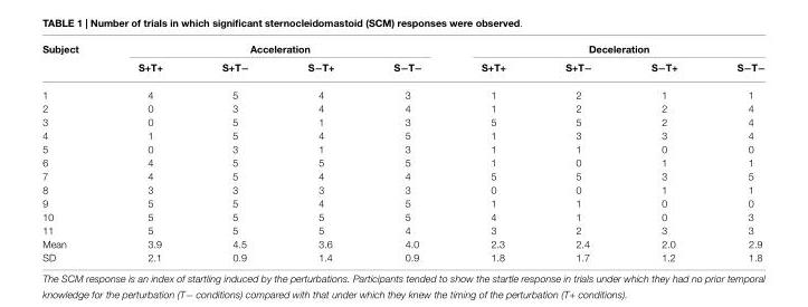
<table><thead><tr><td rowspan="2">Subject</td><td colspan="4">Acceleration</td><td colspan="4">Deceleration</td></tr><tr><td>S+T+</td><td>S+T−</td><td>S−T+</td><td>S−T−</td><td>S+T+</td><td>S+T−</td><td>S−T+</td><td>S−T−</td></tr></thead><tbody><tr><td>1</td><td>4</td><td>5</td><td>4</td><td>3</td><td>1</td><td>2</td><td>1</td><td>1</td></tr><tr><td>2</td><td>0</td><td>3</td><td>4</td><td>4</td><td>1</td><td>2</td><td>2</td><td>4</td></tr><tr><td>3</td><td>0</td><td>5</td><td>1</td><td>3</td><td>5</td><td>5</td><td>2</td><td>4</td></tr><tr><td>4</td><td>1</td><td>5</td><td>4</td><td>5</td><td>1</td><td>3</td><td>3</td><td>4</td></tr><tr><td>5</td><td>0</td><td>3</td><td>1</td><td>3</td><td>1</td><td>1</td><td>0</td><td>0</td></tr><tr><td>6</td><td>4</td><td>5</td><td>5</td><td>5</td><td>1</td><td>0</td><td>1</td><td>1</td></tr><tr><td>7</td><td>4</td><td>5</td><td>4</td><td>4</td><td>5</td><td>5</td><td>3</td><td>5</td></tr><tr><td>8</td><td>3</td><td>3</td><td>3</td><td>3</td><td>0</td><td>0</td><td>1</td><td>1</td></tr><tr><td>9</td><td>5</td><td>5</td><td>4</td><td>5</td><td>1</td><td>1</td><td>0</td><td>0</td></tr><tr><td>10</td><td>5</td><td>5</td><td>5</td><td>5</td><td>4</td><td>1</td><td>0</td><td>3</td></tr><tr><td>11</td><td>5</td><td>5</td><td>5</td><td>4</td><td>3</td><td>2</td><td>3</td><td>3</td></tr><tr><td>Mean</td><td>3.9</td><td>4.5</td><td>3.6</td><td>4.0</td><td>2.3</td><td>2.4</td><td>2.0</td><td>2.9</td></tr><tr><td>SD</td><td>2.1</td><td>0.9</td><td>1.4</td><td>0.9</td><td>1.8</td><td>1.7</td><td>1.2</td><td>1.8</td></tr></tbody></table>